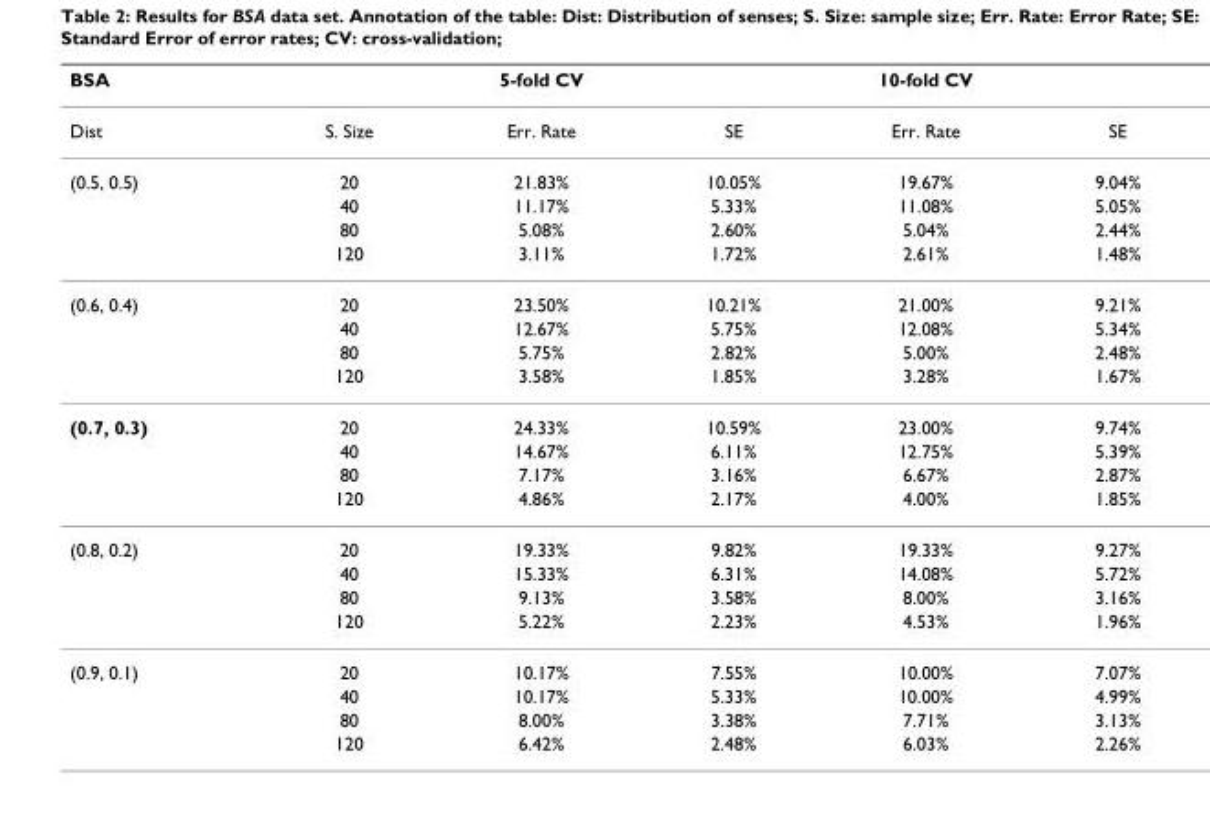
<table><thead><tr><td>BSA</td><td></td><td>5-fold CV</td><td></td><td>10-fold CV</td><td></td></tr></thead><tbody><tr><td>Dist</td><td>S. Size</td><td>Err. Rate</td><td>SE</td><td>Err. Rate</td><td>SE</td></tr><tr><td rowspan="4">(0.5, 0.5)</td><td>20</td><td>21.83%</td><td>10.05%</td><td>19.67%</td><td>9.04%</td></tr><tr><td>40</td><td>11.17%</td><td>5.33%</td><td>11.08%</td><td>5.05%</td></tr><tr><td>80</td><td>5.08%</td><td>2.60%</td><td>5.04%</td><td>2.44%</td></tr><tr><td>120</td><td>3.11%</td><td>1.72%</td><td>2.61%</td><td>1.48%</td></tr><tr><td rowspan="4">(0.6, 0.4)</td><td>20</td><td>23.50%</td><td>10.21%</td><td>21.00%</td><td>9.21%</td></tr><tr><td>40</td><td>12.67%</td><td>5.75%</td><td>12.08%</td><td>5.34%</td></tr><tr><td>80</td><td>5.75%</td><td>2.82%</td><td>5.00%</td><td>2.48%</td></tr><tr><td>120</td><td>3.58%</td><td>1.85%</td><td>3.28%</td><td>1.67%</td></tr><tr><td rowspan="4">(0.7, 0.3)</td><td>20</td><td>24.33%</td><td>10.59%</td><td>23.00%</td><td>9.74%</td></tr><tr><td>40</td><td>14.67%</td><td>6.11%</td><td>12.75%</td><td>5.39%</td></tr><tr><td>80</td><td>7.17%</td><td>3.16%</td><td>6.67%</td><td>2.87%</td></tr><tr><td>120</td><td>4.86%</td><td>2.17%</td><td>4.00%</td><td>1.85%</td></tr><tr><td rowspan="4">(0.8, 0.2)</td><td>20</td><td>19.33%</td><td>9.82%</td><td>19.33%</td><td>9.27%</td></tr><tr><td>40</td><td>15.33%</td><td>6.31%</td><td>14.08%</td><td>5.72%</td></tr><tr><td>80</td><td>9.13%</td><td>3.58%</td><td>8.00%</td><td>3.16%</td></tr><tr><td>120</td><td>5.22%</td><td>2.23%</td><td>4.53%</td><td>1.96%</td></tr><tr><td rowspan="4">(0.9, 0.1)</td><td>20</td><td>10.17%</td><td>7.55%</td><td>10.00%</td><td>7.07%</td></tr><tr><td>40</td><td>10.17%</td><td>5.33%</td><td>10.00%</td><td>4.99%</td></tr><tr><td>80</td><td>8.00%</td><td>3.38%</td><td>7.71%</td><td>3.13%</td></tr><tr><td>120</td><td>6.42%</td><td>2.48%</td><td>6.03%</td><td>2.26%</td></tr></tbody></table>